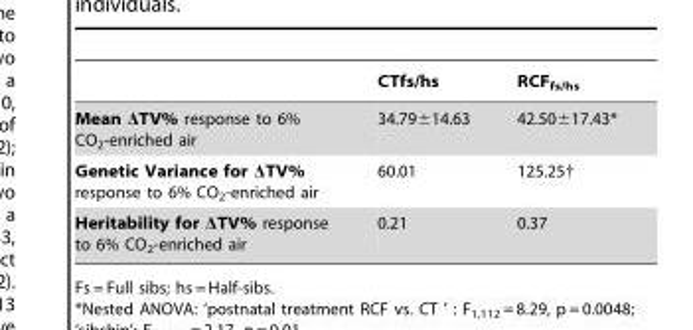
<table><thead><tr><td></td><td>CTfs/hs</td><td>RCF<sub>fs/hs</sub></td></tr></thead><tbody><tr><td>Mean ΔTV% response to 6% CO<sub>2</sub>-enriched air</td><td>34.79±14.63</td><td>42.50±17.43*</td></tr><tr><td>Genetic Variance for ΔTV% response to 6% CO<sub>2</sub>-enriched air</td><td>60.01</td><td>125.25†</td></tr><tr><td>Heritability for ΔTV% response to 6% CO<sub>2</sub>-enriched air</td><td>0.21</td><td>0.37</td></tr></tbody></table>